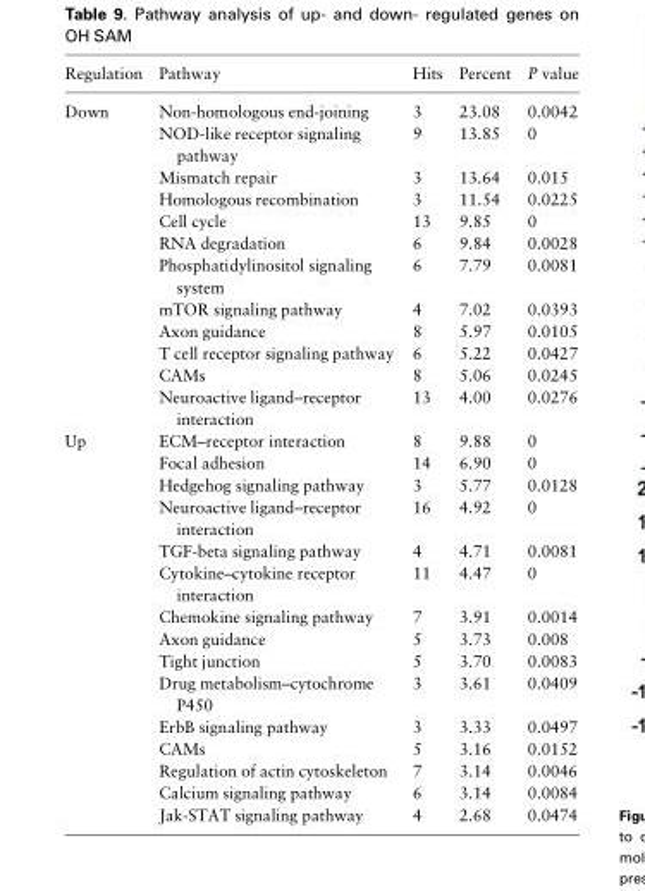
<table><thead><tr><td>Regulation</td><td>Pathway</td><td>Hits</td><td>Percent</td><td>P value</td></tr></thead><tbody><tr><td rowspan="12">Down</td><td>Non-homologous end-joining</td><td>3</td><td>23.08</td><td>0.0042</td></tr><tr><td>NOD-like receptor signaling pathway</td><td>9</td><td>13.85</td><td>0</td></tr><tr><td>Mismatch repair</td><td>3</td><td>13.64</td><td>0.015</td></tr><tr><td>Homologous recombination</td><td>3</td><td>11.54</td><td>0.0225</td></tr><tr><td>Cell cycle</td><td>13</td><td>9.85</td><td>0</td></tr><tr><td>RNA degradation</td><td>6</td><td>9.84</td><td>0.0028</td></tr><tr><td>Phosphatidylinositol signaling system</td><td>6</td><td>7.79</td><td>0.0081</td></tr><tr><td>mTOR signaling pathway</td><td>4</td><td>7.02</td><td>0.0393</td></tr><tr><td>Axon guidance</td><td>8</td><td>5.97</td><td>0.0105</td></tr><tr><td>T cell receptor signaling pathway</td><td>6</td><td>5.22</td><td>0.0427</td></tr><tr><td>CAMs</td><td>8</td><td>5.06</td><td>0.0245</td></tr><tr><td>Neuroactive ligand–receptor interaction</td><td>13</td><td>4.00</td><td>0.0276</td></tr><tr><td rowspan="15">Up</td><td>ECM–receptor interaction</td><td>8</td><td>9.88</td><td>0</td></tr><tr><td>Focal adhesion</td><td>14</td><td>6.90</td><td>0</td></tr><tr><td>Hedgehog signaling pathway</td><td>3</td><td>5.77</td><td>0.0128</td></tr><tr><td>Neuroactive ligand–receptor interaction</td><td>16</td><td>4.92</td><td>0</td></tr><tr><td>TGF-beta signaling pathway</td><td>4</td><td>4.71</td><td>0.0081</td></tr><tr><td>Cytokine–cytokine receptor interaction</td><td>11</td><td>4.47</td><td>0</td></tr><tr><td>Chemokine signaling pathway</td><td>7</td><td>3.91</td><td>0.0014</td></tr><tr><td>Axon guidance</td><td>5</td><td>3.73</td><td>0.008</td></tr><tr><td>Tight junction</td><td>5</td><td>3.70</td><td>0.0083</td></tr><tr><td>Drug metabolism–cytochrome P450</td><td>3</td><td>3.61</td><td>0.0409</td></tr><tr><td>ErbB signaling pathway</td><td>3</td><td>3.33</td><td>0.0497</td></tr><tr><td>CAMs</td><td>5</td><td>3.16</td><td>0.0152</td></tr><tr><td>Regulation of actin cytoskeleton</td><td>7</td><td>3.14</td><td>0.0046</td></tr><tr><td>Calcium signaling pathway</td><td>6</td><td>3.14</td><td>0.0084</td></tr><tr><td>Jak-STAT signaling pathway</td><td>4</td><td>2.68</td><td>0.0474</td></tr></tbody></table>